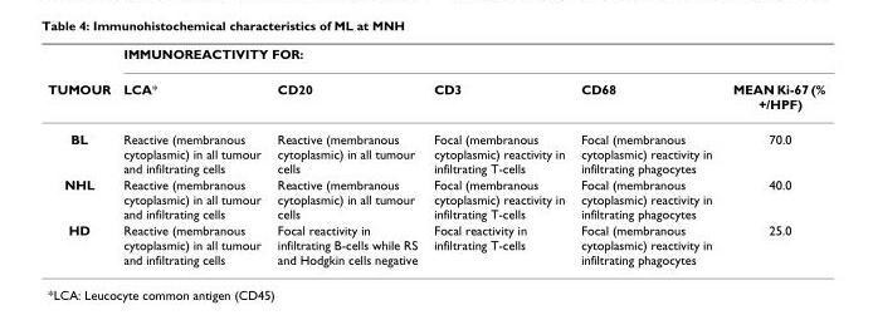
<table><thead><tr><td rowspan="2">TUMOUR</td><td colspan="5">IMMUNOREACTIVITY FOR:</td></tr><tr><td>LCA*</td><td>CD20</td><td>CD3</td><td>CD68</td><td>MEAN Ki-67 (% +/HPF)</td></tr></thead><tbody><tr><td>BL</td><td>Reactive (membranous cytoplasmic) in all tumour and infiltrating cells</td><td>Reactive (membranous cytoplasmic) in all tumour cells</td><td>Focal (membranous cytoplasmic) reactivity in infiltrating T-cells</td><td>Focal (membranous cytoplasmic) reactivity in infiltrating phagocytes</td><td>70.0</td></tr><tr><td>NHL</td><td>Reactive (membranous cytoplasmic) in all tumour and infiltrating cells</td><td>Reactive (membranous cytoplasmic) in all tumour cells</td><td>Focal (membranous cytoplasmic) reactivity in infiltrating T-cells</td><td>Focal (membranous cytoplasmic) reactivity in infiltrating phagocytes</td><td>40.0</td></tr><tr><td>HD</td><td>Reactive (membranous cytoplasmic) in all tumour and infiltrating cells</td><td>Focal reactivity in infiltrating B-cells while RS and Hodgkin cells negative</td><td>Focal reactivity in infiltrating T-cells</td><td>Focal (membranous cytoplasmic) reactivity in infiltrating phagocytes</td><td>25.0</td></tr></tbody></table>